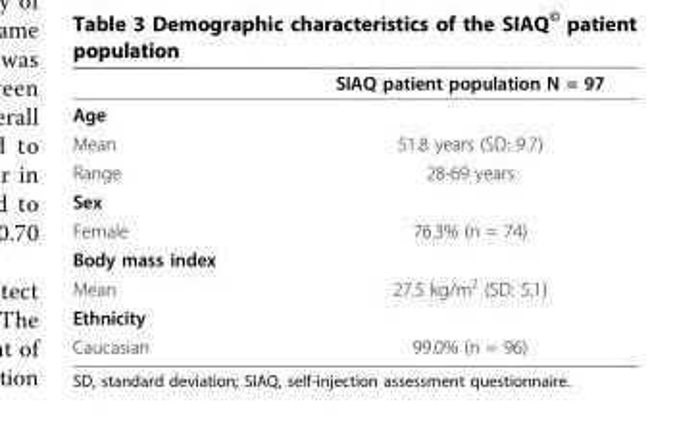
<table><thead><tr><td></td><td>SIAQ patient population N = 97</td></tr></thead><tbody><tr><td colspan="2">Age</td></tr><tr><td>Mean</td><td>51.8 years (SD: 9.7)</td></tr><tr><td>Range</td><td>28-69 years</td></tr><tr><td colspan="2">Sex</td></tr><tr><td>Female</td><td>76.3% (n = 74)</td></tr><tr><td colspan="2">Body mass index</td></tr><tr><td>Mean</td><td>27.5 kg/m<sup>2</sup> (SD: 5.1)</td></tr><tr><td colspan="2">Ethnicity</td></tr><tr><td>Caucasian</td><td>99.0% (n = 96)</td></tr></tbody></table>